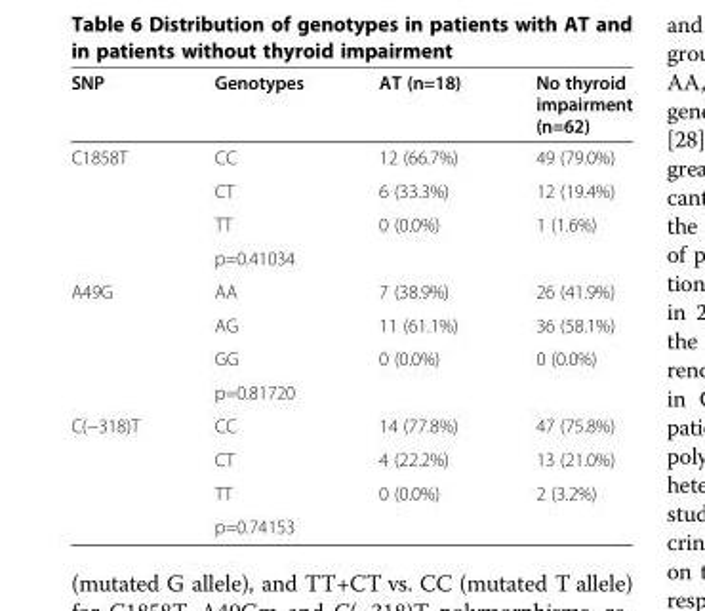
<table><thead><tr><td>SNP</td><td>Genotypes</td><td>AT (n=18)</td><td>No thyroid impairment (n=62)</td></tr></thead><tbody><tr><td rowspan="4">C1858T</td><td>CC</td><td>12 (66.7%)</td><td>49 (79.0%)</td></tr><tr><td>CT</td><td>6 (33.3%)</td><td>12 (19.4%)</td></tr><tr><td>TT</td><td>0 (0.0%)</td><td>1 (1.6%)</td></tr><tr><td colspan="3">p=0.41034</td></tr><tr><td rowspan="4">A49G</td><td>AA</td><td>7 (38.9%)</td><td>26 (41.9%)</td></tr><tr><td>AG</td><td>11 (61.1%)</td><td>36 (58.1%)</td></tr><tr><td>GG</td><td>0 (0.0%)</td><td>0 (0.0%)</td></tr><tr><td colspan="3">p=0.81720</td></tr><tr><td rowspan="4">C(−318)T</td><td>CC</td><td>14 (77.8%)</td><td>47 (75.8%)</td></tr><tr><td>CT</td><td>4 (22.2%)</td><td>13 (21.0%)</td></tr><tr><td>TT</td><td>0 (0.0%)</td><td>2 (3.2%)</td></tr><tr><td colspan="3">p=0.74153</td></tr></tbody></table>